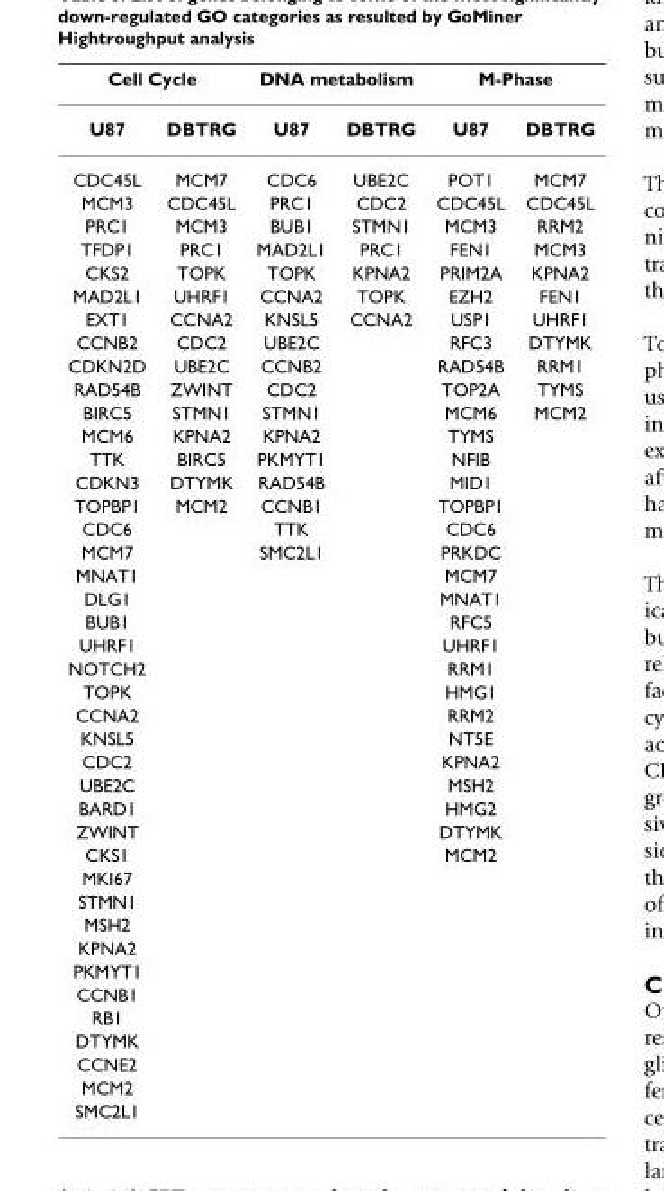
<table><thead><tr><td colspan="2">Cell Cycle</td><td colspan="2">DNA metabolism</td><td colspan="2">M-Phase</td></tr><tr><td>U87</td><td>DBTRG</td><td>U87</td><td>DBTRG</td><td>U87</td><td>DBTRG</td></tr></thead><tbody><tr><td>CDC45L</td><td>MCM7</td><td>CDC6</td><td>UBE2C</td><td>POT1</td><td>MCM7</td></tr><tr><td>MCM3</td><td>CDC45L</td><td>PRC1</td><td>CDC2</td><td>CDC45L</td><td>CDC45L</td></tr><tr><td>PRC1</td><td>MCM3</td><td>BUB1</td><td>STMN1</td><td>MCM3</td><td>RRM2</td></tr><tr><td>TFDP1</td><td>PRC1</td><td>MAD2L1</td><td>PRC1</td><td>FEN1</td><td>MCM3</td></tr><tr><td>CKS2</td><td>TOPK</td><td>TOPK</td><td>KPNA2</td><td>PRIM2A</td><td>KPNA2</td></tr><tr><td>MAD2L1</td><td>UHRF1</td><td>CCNA2</td><td>TOPK</td><td>EZH2</td><td>FEN1</td></tr><tr><td>EXT1</td><td>CCNA2</td><td>KNSL5</td><td>CCNA2</td><td>USP1</td><td>UHRF1</td></tr><tr><td>CCNB2</td><td>CDC2</td><td>UBE2C</td><td></td><td>RFC3</td><td>DTYMK</td></tr><tr><td>CDKN2D</td><td>UBE2C</td><td>CCNB2</td><td></td><td>RAD54B</td><td>RRM1</td></tr><tr><td>RAD54B</td><td>ZWINT</td><td>CDC2</td><td></td><td>TOP2A</td><td>TYMS</td></tr><tr><td>BIRC5</td><td>STMN1</td><td>STMN1</td><td></td><td>MCM6</td><td>MCM2</td></tr><tr><td>MCM6</td><td>KPNA2</td><td>KPNA2</td><td></td><td>TYMS</td><td></td></tr><tr><td>TTK</td><td>BIRC5</td><td>PKMYT1</td><td></td><td>NFIB</td><td></td></tr><tr><td>CDKN3</td><td>DTYMK</td><td>RAD54B</td><td></td><td>MID1</td><td></td></tr><tr><td>TOPBP1</td><td>MCM2</td><td>CCNB1</td><td></td><td>TOPBP1</td><td></td></tr><tr><td>CDC6</td><td></td><td>TTK</td><td></td><td>CDC6</td><td></td></tr><tr><td>MCM7</td><td></td><td>SMC2L1</td><td></td><td>PRKDC</td><td></td></tr><tr><td>MNAT1</td><td></td><td></td><td></td><td>MCM7</td><td></td></tr><tr><td>DLG1</td><td></td><td></td><td></td><td>MNAT1</td><td></td></tr><tr><td>BUB1</td><td></td><td></td><td></td><td>RFC5</td><td></td></tr><tr><td>UHRF1</td><td></td><td></td><td></td><td>UHRF1</td><td></td></tr><tr><td>NOTCH2</td><td></td><td></td><td></td><td>RRM1</td><td></td></tr><tr><td>TOPK</td><td></td><td></td><td></td><td>HMG1</td><td></td></tr><tr><td>CCNA2</td><td></td><td></td><td></td><td>RRM2</td><td></td></tr><tr><td>KNSL5</td><td></td><td></td><td></td><td>NT5E</td><td></td></tr><tr><td>CDC2</td><td></td><td></td><td></td><td>KPNA2</td><td></td></tr><tr><td>UBE2C</td><td></td><td></td><td></td><td>MSH2</td><td></td></tr><tr><td>BARD1</td><td></td><td></td><td></td><td>HMG2</td><td></td></tr><tr><td>ZWINT</td><td></td><td></td><td></td><td>DTYMK</td><td></td></tr><tr><td>CKS1</td><td></td><td></td><td></td><td>MCM2</td><td></td></tr><tr><td colspan="6">MKI67</td></tr><tr><td colspan="6">STMN1</td></tr><tr><td colspan="6">MSH2</td></tr><tr><td colspan="6">KPNA2</td></tr><tr><td colspan="6">PKMYT1</td></tr><tr><td colspan="6">CCNB1</td></tr><tr><td colspan="6">RB1</td></tr><tr><td colspan="6">DTYMK</td></tr><tr><td colspan="6">CCNE2</td></tr><tr><td colspan="6">MCM2</td></tr><tr><td>SMC2L1</td><td></td><td></td><td></td><td></td><td></td></tr></tbody></table>